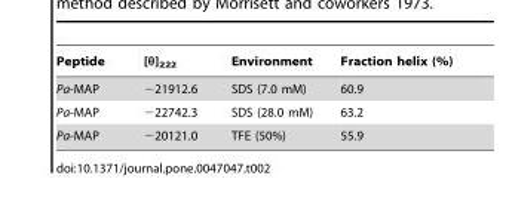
<table><thead><tr><td>Peptide</td><td>[θ]<sub>222</sub></td><td>Environment</td><td>Fraction helix (%)</td></tr></thead><tbody><tr><td>Pa-MAP</td><td>−21912.6</td><td>SDS (7.0 mM)</td><td>60.9</td></tr><tr><td>Pa-MAP</td><td>−22742.3</td><td>SDS (28.0 mM)</td><td>63.2</td></tr><tr><td>Pa-MAP</td><td>−20121.0</td><td>TFE (50%)</td><td>55.9</td></tr></tbody></table>